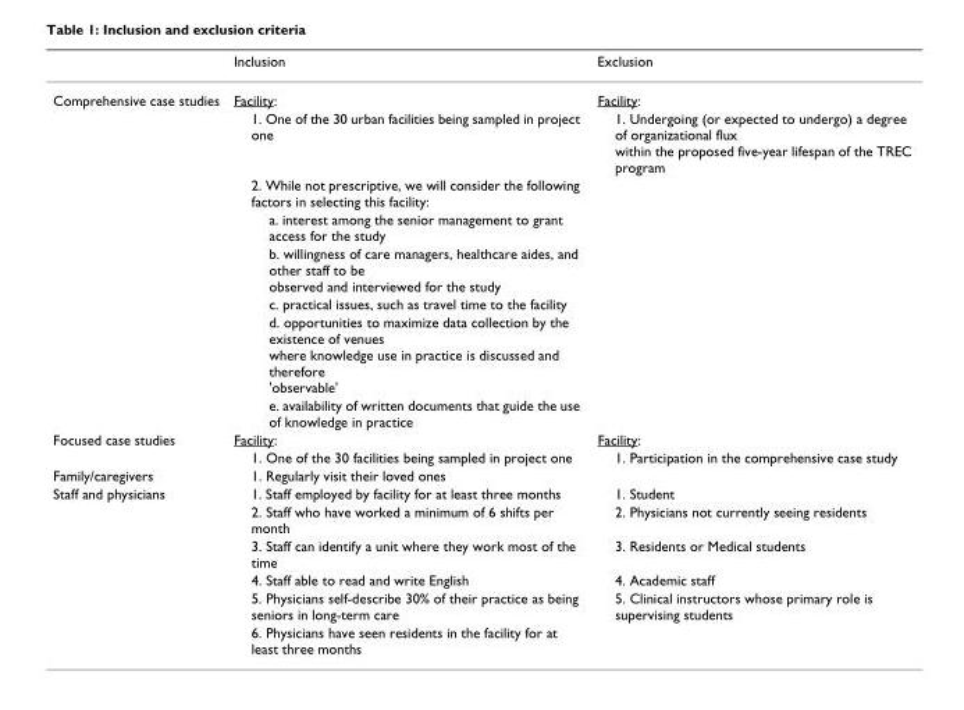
<table><thead><tr><td></td><td>Inclusion</td><td>Exclusion</td></tr></thead><tbody><tr><td rowspan="8">Comprehensive case studies</td><td>Facility:</td><td>Facility:</td></tr><tr><td>1. One of the 30 urban facilities being sampled in project one</td><td>1. Undergoing (or expected to undergo) a degree of organizational flux within the proposed five-year lifespan of the TREC program</td></tr><tr><td>2. While not prescriptive, we will consider the following factors in selecting this facility:</td><td></td></tr><tr><td>a. interest among the senior management to grant access for the study</td><td></td></tr><tr><td>b. willingness of care managers, healthcare aides, and other staff to be observed and interviewed for the study</td><td></td></tr><tr><td>c. practical issues, such as travel time to the facility</td><td></td></tr><tr><td>d. opportunities to maximize data collection by the existence of venues where knowledge use in practice is discussed and therefore &#x27;observable&#x27;</td><td></td></tr><tr><td>e. availability of written documents that guide the use of knowledge in practice</td><td></td></tr><tr><td rowspan="2">Focused case studies</td><td>Facility:</td><td>Facility:</td></tr><tr><td>1. One of the 30 facilities being sampled in project one</td><td>1. Participation in the comprehensive case study</td></tr><tr><td>Family/caregivers</td><td>1. Regularly visit their loved ones</td><td></td></tr><tr><td rowspan="6">Staff and physicians</td><td>1. Staff employed by facility for at least three months</td><td>1. Student</td></tr><tr><td>2. Staff who have worked a minimum of 6 shifts per month</td><td>2. Physicians not currently seeing residents</td></tr><tr><td>3. Staff can identify a unit where they work most of the time</td><td>3. Residents or Medical students</td></tr><tr><td>4. Staff able to read and write English</td><td>4. Academic staff</td></tr><tr><td>5. Physicians self-describe 30% of their practice as being seniors in long-term care</td><td>5. Clinical instructors whose primary role is supervising students</td></tr><tr><td>6. Physicians have seen residents in the facility for at least three months</td><td></td></tr></tbody></table>